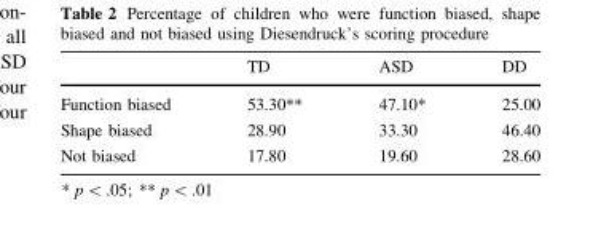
<table><thead><tr><td></td><td>TD</td><td>ASD</td><td>DD</td></tr></thead><tbody><tr><td>Function biased</td><td>53.30**</td><td>47.10*</td><td>25.00</td></tr><tr><td>Shape biased</td><td>28.90</td><td>33.30</td><td>46.40</td></tr><tr><td>Not biased</td><td>17.80</td><td>19.60</td><td>28.60</td></tr></tbody></table>